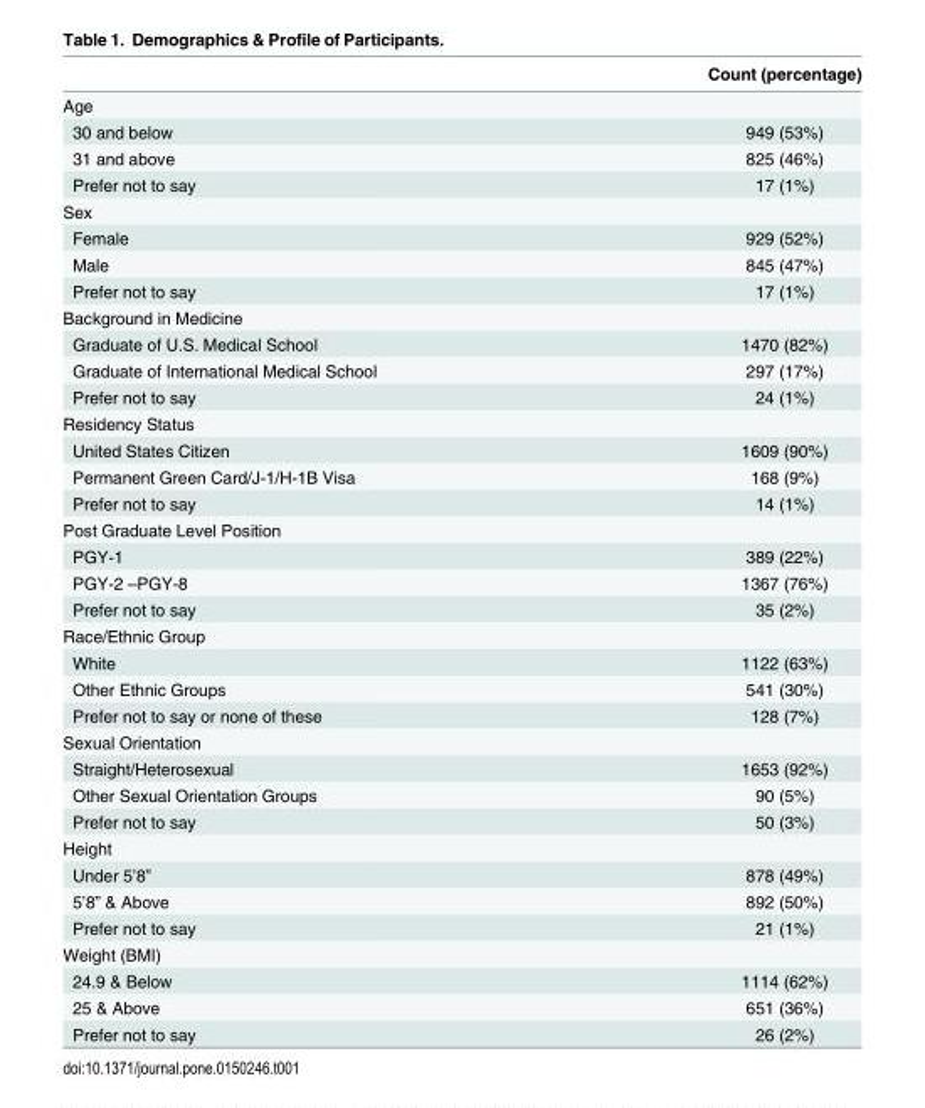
<table><thead><tr><td></td><td>Count (percentage)</td></tr></thead><tbody><tr><td colspan="2">Age</td></tr><tr><td>30 and below</td><td>949 (53%)</td></tr><tr><td>31 and above</td><td>825 (46%)</td></tr><tr><td>Prefer not to say</td><td>17 (1%)</td></tr><tr><td colspan="2">Sex</td></tr><tr><td>Female</td><td>929 (52%)</td></tr><tr><td>Male</td><td>845 (47%)</td></tr><tr><td>Prefer not to say</td><td>17 (1%)</td></tr><tr><td colspan="2">Background in Medicine</td></tr><tr><td>Graduate of U.S. Medical School</td><td>1470 (82%)</td></tr><tr><td>Graduate of International Medical School</td><td>297 (17%)</td></tr><tr><td>Prefer not to say</td><td>24 (1%)</td></tr><tr><td colspan="2">Residency Status</td></tr><tr><td>United States Citizen</td><td>1609 (90%)</td></tr><tr><td>Permanent Green Card/J-1/H-1B Visa</td><td>168 (9%)</td></tr><tr><td>Prefer not to say</td><td>14 (1%)</td></tr><tr><td colspan="2">Post Graduate Level Position</td></tr><tr><td>PGY-1</td><td>389 (22%)</td></tr><tr><td>PGY-2 –PGY-8</td><td>1367 (76%)</td></tr><tr><td>Prefer not to say</td><td>35 (2%)</td></tr><tr><td colspan="2">Race/Ethnic Group</td></tr><tr><td>White</td><td>1122 (63%)</td></tr><tr><td>Other Ethnic Groups</td><td>541 (30%)</td></tr><tr><td>Prefer not to say or none of these</td><td>128 (7%)</td></tr><tr><td colspan="2">Sexual Orientation</td></tr><tr><td>Straight/Heterosexual</td><td>1653 (92%)</td></tr><tr><td>Other Sexual Orientation Groups</td><td>90 (5%)</td></tr><tr><td>Prefer not to say</td><td>50 (3%)</td></tr><tr><td colspan="2">Height</td></tr><tr><td>Under 5’8”</td><td>878 (49%)</td></tr><tr><td>5’8” &amp; Above</td><td>892 (50%)</td></tr><tr><td>Prefer not to say</td><td>21 (1%)</td></tr><tr><td colspan="2">Weight (BMI)</td></tr><tr><td>24.9 &amp; Below</td><td>1114 (62%)</td></tr><tr><td>25 &amp; Above</td><td>651 (36%)</td></tr><tr><td>Prefer not to say</td><td>26 (2%)</td></tr></tbody></table>